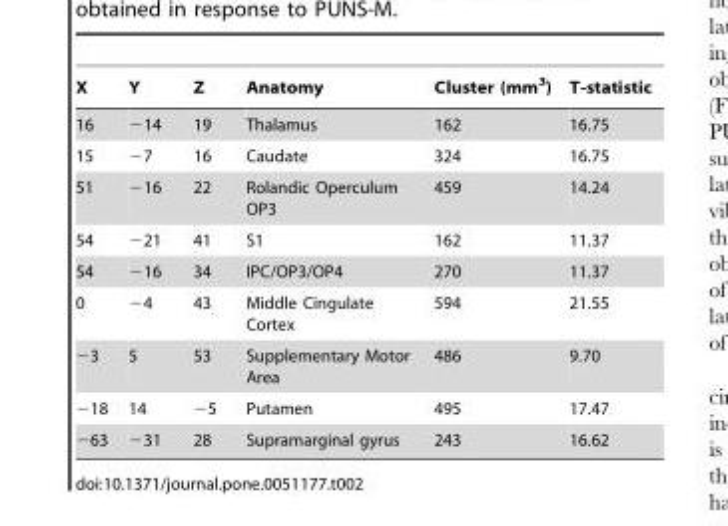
<table><thead><tr><td>X</td><td>Y</td><td>Z</td><td>Anatomy</td><td>Cluster (mm<sup>3</sup>)</td><td>T-statistic</td></tr></thead><tbody><tr><td>16</td><td>−14</td><td>19</td><td>Thalamus</td><td>162</td><td>16.75</td></tr><tr><td>15</td><td>−7</td><td>16</td><td>Caudate</td><td>324</td><td>16.75</td></tr><tr><td>51</td><td>−16</td><td>22</td><td>Rolandic Operculum OP3</td><td>459</td><td>14.24</td></tr><tr><td>54</td><td>−21</td><td>41</td><td>S1</td><td>162</td><td>11.37</td></tr><tr><td>54</td><td>−16</td><td>34</td><td>IPC/OP3/OP4</td><td>270</td><td>11.37</td></tr><tr><td>0</td><td>−4</td><td>43</td><td>Middle Cingulate Cortex</td><td>594</td><td>21.55</td></tr><tr><td>−3</td><td>5</td><td>53</td><td>Supplementary Motor Area</td><td>486</td><td>9.70</td></tr><tr><td>−18</td><td>14</td><td>−5</td><td>Putamen</td><td>495</td><td>17.47</td></tr><tr><td>−63</td><td>−31</td><td>28</td><td>Supramarginal gyrus</td><td>243</td><td>16.62</td></tr></tbody></table>